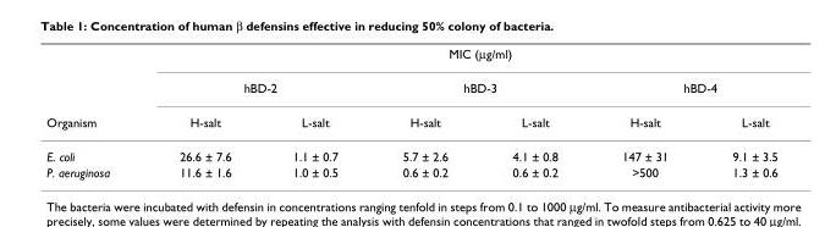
<table><thead><tr><td rowspan="3">Organism</td><td colspan="6">MIC (µg/ml)</td></tr><tr><td colspan="2">hBD-2</td><td colspan="2">hBD-3</td><td colspan="2">hBD-4</td></tr><tr><td>H-salt</td><td>L-salt</td><td>H-salt</td><td>L-salt</td><td>H-salt</td><td>L-salt</td></tr></thead><tbody><tr><td>E. coli</td><td>26.6 ± 7.6</td><td>1.1 ± 0.7</td><td>5.7 ± 2.6</td><td>4.1 ± 0.8</td><td>147 ± 31</td><td>9.1 ± 3.5</td></tr><tr><td>P. aeruginosa</td><td>11.6 ± 1.6</td><td>1.0 ± 0.5</td><td>0.6 ± 0.2</td><td>0.6 ± 0.2</td><td>&gt;500</td><td>1.3 ± 0.6</td></tr></tbody></table>